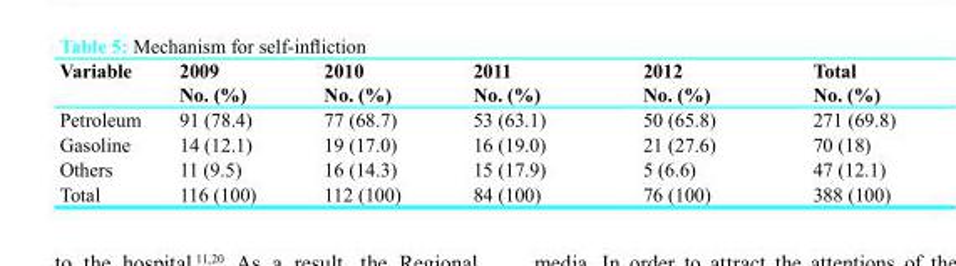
<table><thead><tr><td>Variable</td><td>2009 No. (%)</td><td>2010 No. (%)</td><td>2011 No. (%)</td><td>2012 No. (%)</td><td>Total No. (%)</td></tr></thead><tbody><tr><td>Petroleum</td><td>91 (78.4)</td><td>77 (68.7)</td><td>53 (63.1)</td><td>50 (65.8)</td><td>271 (69.8)</td></tr><tr><td>Gasoline</td><td>14 (12.1)</td><td>19 (17.0)</td><td>16 (19.0)</td><td>21 (27.6)</td><td>70 (18)</td></tr><tr><td>Others</td><td>11 (9.5)</td><td>16 (14.3)</td><td>15 (17.9)</td><td>5 (6.6)</td><td>47 (12.1)</td></tr><tr><td>Total</td><td>116 (100)</td><td>112 (100)</td><td>84 (100)</td><td>76 (100)</td><td>388 (100)</td></tr></tbody></table>